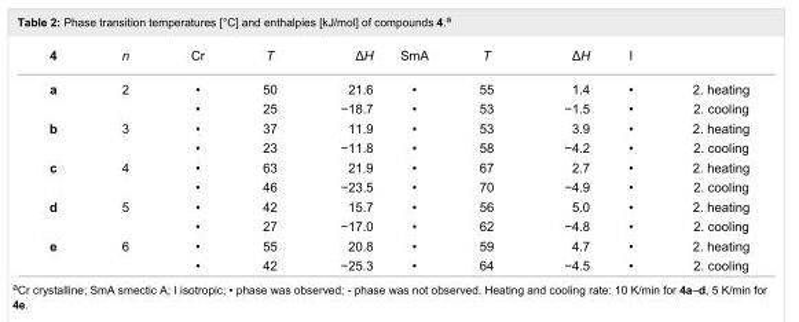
<table><tbody><tr><td>4</td><td>n</td><td>Cr</td><td>T</td><td>ΔH</td><td>SmA</td><td>T</td><td>ΔH</td><td>I</td><td></td></tr><tr><td rowspan="2">a</td><td>2</td><td>•</td><td>50</td><td>21.6</td><td>•</td><td>55</td><td>1.4</td><td>•</td><td>2. heating</td></tr><tr><td></td><td>•</td><td>25</td><td>−18.7</td><td>•</td><td>53</td><td>−1.5</td><td>•</td><td>2. cooling</td></tr><tr><td rowspan="2">b</td><td>3</td><td>•</td><td>37</td><td>11.9</td><td>•</td><td>53</td><td>3.9</td><td>•</td><td>2. heating</td></tr><tr><td></td><td>•</td><td>23</td><td>−11.8</td><td>•</td><td>58</td><td>−4.2</td><td>•</td><td>2. cooling</td></tr><tr><td rowspan="2">c</td><td>4</td><td>•</td><td>63</td><td>21.9</td><td>•</td><td>67</td><td>2.7</td><td>•</td><td>2. heating</td></tr><tr><td></td><td>•</td><td>46</td><td>−23.5</td><td>•</td><td>70</td><td>−4.9</td><td>•</td><td>2. cooling</td></tr><tr><td rowspan="2">d</td><td>5</td><td>•</td><td>42</td><td>15.7</td><td>•</td><td>56</td><td>5.0</td><td>•</td><td>2. heating</td></tr><tr><td></td><td>•</td><td>27</td><td>−17.0</td><td>•</td><td>62</td><td>−4.8</td><td>•</td><td>2. cooling</td></tr><tr><td rowspan="2">e</td><td>6</td><td>•</td><td>55</td><td>20.8</td><td>•</td><td>59</td><td>4.7</td><td>•</td><td>2. heating</td></tr><tr><td></td><td>•</td><td>42</td><td>−25.3</td><td>•</td><td>64</td><td>−4.5</td><td>•</td><td>2. cooling</td></tr></tbody></table>